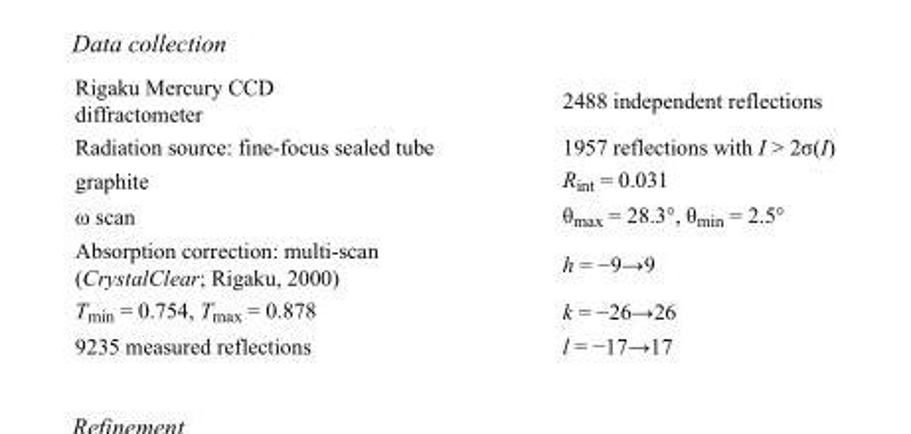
<table><tbody><tr><td>Rigaku Mercury CCD diffractometer</td><td>2488 independent reflections</td></tr><tr><td>Radiation source: fine-focus sealed tube</td><td>1957 reflections with I &gt; 2σ(I)</td></tr><tr><td>graphite</td><td>R<sub>int</sub> = 0.031</td></tr><tr><td>ω scan</td><td>θ<sub>max</sub> = 28.3°, θ<sub>min</sub> = 2.5°</td></tr><tr><td>Absorption correction: multi-scan (CrystalClear; Rigaku, 2000)</td><td>h = −9→9</td></tr><tr><td>T<sub>min</sub> = 0.754, T<sub>max</sub> = 0.878</td><td>k = −26→26</td></tr><tr><td>9235 measured reflections</td><td>l = −17→17</td></tr></tbody></table>